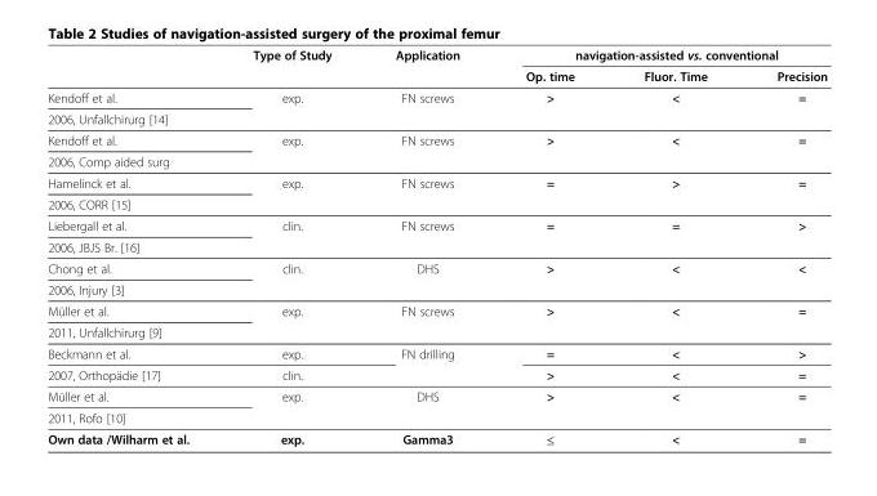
<table><thead><tr><td rowspan="2"></td><td rowspan="2">Type of Study</td><td rowspan="2">Application</td><td colspan="3">navigation-assisted vs. conventional</td></tr><tr><td>Op. time</td><td>Fluor. Time</td><td>Precision</td></tr></thead><tbody><tr><td>Kendoff et al.</td><td>exp.</td><td>FN screws</td><td>&gt;</td><td>&lt;</td><td>=</td></tr><tr><td colspan="6">2006, Unfallchirurg [14]</td></tr><tr><td>Kendoff et al.</td><td>exp.</td><td>FN screws</td><td>&gt;</td><td>&lt;</td><td>=</td></tr><tr><td colspan="6">2006, Comp aided surg</td></tr><tr><td>Hamelinck et al.</td><td>exp.</td><td>FN screws</td><td>=</td><td>&gt;</td><td>=</td></tr><tr><td colspan="6">2006, CORR [15]</td></tr><tr><td>Liebergall et al.</td><td>clin.</td><td>FN screws</td><td>=</td><td>=</td><td>&gt;</td></tr><tr><td colspan="6">2006, JBJS Br. [16]</td></tr><tr><td>Chong et al.</td><td>clin.</td><td>DHS</td><td>&gt;</td><td>&lt;</td><td>&lt;</td></tr><tr><td colspan="6">2006, Injury [3]</td></tr><tr><td>Müller et al.</td><td>exp.</td><td>FN screws</td><td>&gt;</td><td>&lt;</td><td>=</td></tr><tr><td colspan="6">2011, Unfallchirurg [9]</td></tr><tr><td>Beckmann et al.</td><td>exp.</td><td>FN drilling</td><td>=</td><td>&lt;</td><td>&gt;</td></tr><tr><td>2007, Orthopädie [17]</td><td>clin.</td><td></td><td>&gt;</td><td>&lt;</td><td>=</td></tr><tr><td>Müller et al.</td><td>exp.</td><td>DHS</td><td>&gt;</td><td>&lt;</td><td>=</td></tr><tr><td colspan="6">2011, Rofo [10]</td></tr><tr><td>Own data /Wilharm et al.</td><td>exp.</td><td>Gamma3</td><td>≤</td><td>&lt;</td><td>=</td></tr></tbody></table>